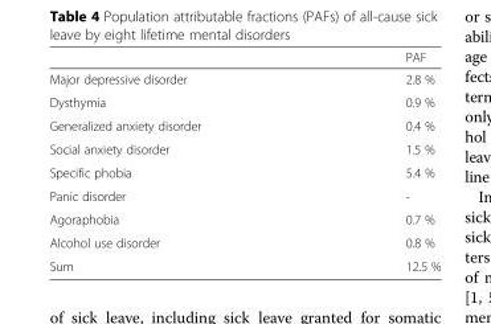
<table><thead><tr><td></td><td>PAF</td></tr></thead><tbody><tr><td>Major depressive disorder</td><td>2.8 %</td></tr><tr><td>Dysthymia</td><td>0.9 %</td></tr><tr><td>Generalized anxiety disorder</td><td>0.4 %</td></tr><tr><td>Social anxiety disorder</td><td>1.5 %</td></tr><tr><td>Specific phobia</td><td>5.4 %</td></tr><tr><td>Panic disorder</td><td>-</td></tr><tr><td>Agoraphobia</td><td>0.7 %</td></tr><tr><td>Alcohol use disorder</td><td>0.8 %</td></tr><tr><td>Sum</td><td>12.5 %</td></tr></tbody></table>